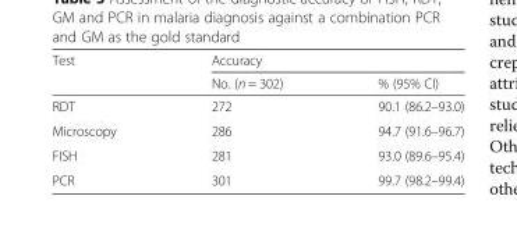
<table><thead><tr><td rowspan="2">Test</td><td colspan="2">Accuracy</td></tr><tr><td>No. (n = 302)</td><td>% (95% CI)</td></tr></thead><tbody><tr><td>RDT</td><td>272</td><td>90.1 (86.2–93.0)</td></tr><tr><td>Microscopy</td><td>286</td><td>94.7 (91.6–96.7)</td></tr><tr><td>FISH</td><td>281</td><td>93.0 (89.6–95.4)</td></tr><tr><td>PCR</td><td>301</td><td>99.7 (98.2–99.4)</td></tr></tbody></table>